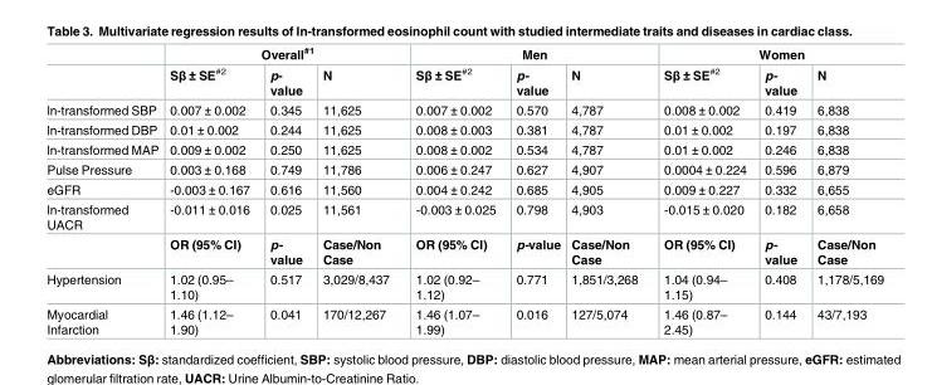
<table><thead><tr><td rowspan="2"></td><td colspan="3">Overall<sup>#1</sup></td><td colspan="3">Men</td><td colspan="3">Women</td></tr><tr><td>Sβ ± SE<sup>#2</sup></td><td>p- value</td><td>N</td><td>Sβ ± SE<sup>#2</sup></td><td>p- value</td><td>N</td><td>Sβ ± SE<sup>#2</sup></td><td>p- value</td><td>N</td></tr></thead><tbody><tr><td>ln-transformed SBP</td><td>0.007 ± 0.002</td><td>0.345</td><td>11,625</td><td>0.007 ± 0.002</td><td>0.570</td><td>4,787</td><td>0.008 ± 0.002</td><td>0.419</td><td>6,838</td></tr><tr><td>ln-transformed DBP</td><td>0.01 ± 0.002</td><td>0.244</td><td>11,625</td><td>0.008 ± 0.003</td><td>0.381</td><td>4,787</td><td>0.01 ± 0.002</td><td>0.197</td><td>6,838</td></tr><tr><td>ln-transformed MAP</td><td>0.009 ± 0.002</td><td>0.250</td><td>11,625</td><td>0.008 ± 0.002</td><td>0.534</td><td>4,787</td><td>0.01 ± 0.002</td><td>0.246</td><td>6,838</td></tr><tr><td>Pulse Pressure</td><td>0.003 ± 0.168</td><td>0.749</td><td>11,786</td><td>0.006 ± 0.247</td><td>0.627</td><td>4,907</td><td>0.0004 ± 0.224</td><td>0.596</td><td>6,879</td></tr><tr><td>eGFR</td><td>-0.003 ± 0.167</td><td>0.616</td><td>11,560</td><td>0.004 ± 0.242</td><td>0.685</td><td>4,905</td><td>0.009 ± 0.227</td><td>0.332</td><td>6,655</td></tr><tr><td rowspan="2">ln-transformed UACR</td><td>-0.011 ± 0.016</td><td>0.025</td><td>11,561</td><td>-0.003 ± 0.025</td><td>0.798</td><td>4,903</td><td>-0.015 ± 0.020</td><td>0.182</td><td>6,658</td></tr><tr><td>OR (95% CI)</td><td>p- value</td><td>Case/Non Case</td><td>OR (95% CI)</td><td>p-value</td><td>Case/Non Case</td><td>OR (95% CI)</td><td>p- value</td><td>Case/Non Case</td></tr><tr><td>Hypertension</td><td>1.02 (0.95– 1.10)</td><td>0.517</td><td>3,029/8,437</td><td>1.02 (0.92– 1.12)</td><td>0.771</td><td>1,851/3,268</td><td>1.04 (0.94– 1.15)</td><td>0.408</td><td>1,178/5,169</td></tr><tr><td>Myocardial Infarction</td><td>1.46 (1.12– 1.90)</td><td>0.041</td><td>170/12,267</td><td>1.46 (1.07– 1.99)</td><td>0.016</td><td>127/5,074</td><td>1.46 (0.87– 2.45)</td><td>0.144</td><td>43/7,193</td></tr></tbody></table>